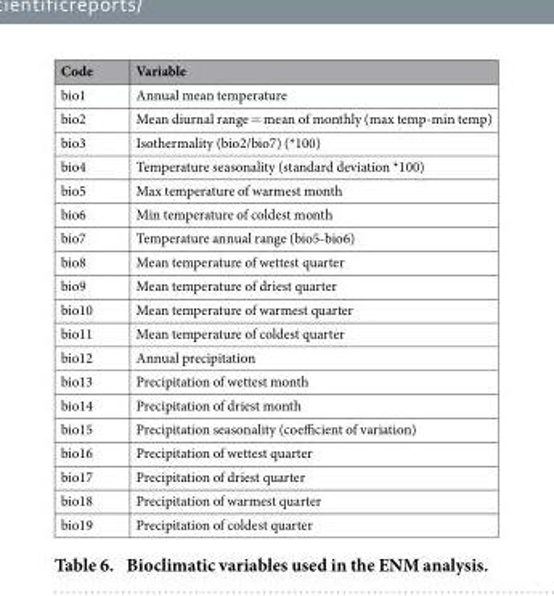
<table><thead><tr><td>Code</td><td>Variable</td></tr></thead><tbody><tr><td>bio1</td><td>Annual mean temperature</td></tr><tr><td>bio2</td><td>Mean diurnal range = mean of monthly (max temp-min temp)</td></tr><tr><td>bio3</td><td>Isothermality (bio2/bio7) (*100)</td></tr><tr><td>bio4</td><td>Temperature seasonality (standard deviation *100)</td></tr><tr><td>bio5</td><td>Max temperature of warmest month</td></tr><tr><td>bio6</td><td>Min temperature of coldest month</td></tr><tr><td>bio7</td><td>Temperature annual range (bio5-bio6)</td></tr><tr><td>bio8</td><td>Mean temperature of wettest quarter</td></tr><tr><td>bio9</td><td>Mean temperature of driest quarter</td></tr><tr><td>bio10</td><td>Mean temperature of warmest quarter</td></tr><tr><td>bio11</td><td>Mean temperature of coldest quarter</td></tr><tr><td>bio12</td><td>Annual precipitation</td></tr><tr><td>bio13</td><td>Precipitation of wettest month</td></tr><tr><td>bio14</td><td>Precipitation of driest month</td></tr><tr><td>bio15</td><td>Precipitation seasonality (coefficient of variation)</td></tr><tr><td>bio16</td><td>Precipitation of wettest quarter</td></tr><tr><td>bio17</td><td>Precipitation of driest quarter</td></tr><tr><td>bio18</td><td>Precipitation of warmest quarter</td></tr><tr><td>bio19</td><td>Precipitation of coldest quarter</td></tr></tbody></table>